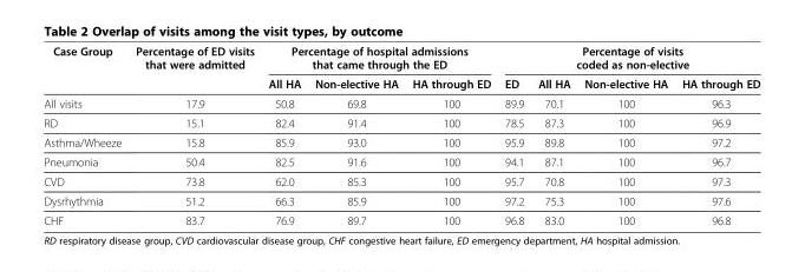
<table><thead><tr><td rowspan="2">Case Group</td><td rowspan="2">Percentage of ED visits that were admitted</td><td colspan="3">Percentage of hospital admissions that came through the ED</td><td colspan="4">Percentage of visits coded as non-elective</td></tr><tr><td>All HA</td><td>Non-elective HA</td><td>HA through ED</td><td>ED</td><td>All HA</td><td>Non-elective HA</td><td>HA through ED</td></tr></thead><tbody><tr><td>All visits</td><td>17.9</td><td>50.8</td><td>69.8</td><td>100</td><td>89.9</td><td>70.1</td><td>100</td><td>96.3</td></tr><tr><td>RD</td><td>15.1</td><td>82.4</td><td>91.4</td><td>100</td><td>78.5</td><td>87.3</td><td>100</td><td>96.9</td></tr><tr><td>Asthma/Wheeze</td><td>15.8</td><td>85.9</td><td>93.0</td><td>100</td><td>95.9</td><td>89.8</td><td>100</td><td>97.2</td></tr><tr><td>Pneumonia</td><td>50.4</td><td>82.5</td><td>91.6</td><td>100</td><td>94.1</td><td>87.1</td><td>100</td><td>96.7</td></tr><tr><td>CVD</td><td>73.8</td><td>62.0</td><td>85.3</td><td>100</td><td>95.7</td><td>70.8</td><td>100</td><td>97.3</td></tr><tr><td>Dysrhythmia</td><td>51.2</td><td>66.3</td><td>85.9</td><td>100</td><td>97.2</td><td>75.3</td><td>100</td><td>97.6</td></tr><tr><td>CHF</td><td>83.7</td><td>76.9</td><td>89.7</td><td>100</td><td>96.8</td><td>83.0</td><td>100</td><td>96.8</td></tr></tbody></table>